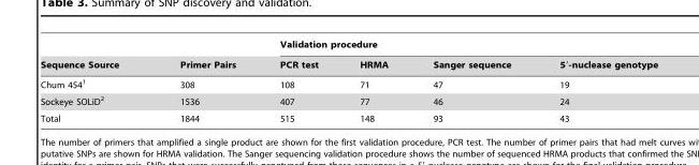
<table><thead><tr><td rowspan="2">Sequence Source</td><td rowspan="2">Primer Pairs</td><td colspan="4">Validation procedure</td></tr><tr><td>PCR test</td><td>HRMA</td><td>Sanger sequence</td><td>5′-nuclease genotype</td></tr></thead><tbody><tr><td>Chum 454<sup>1</sup></td><td>308</td><td>108</td><td>71</td><td>47</td><td>19</td></tr><tr><td>Sockeye SOLiD<sup>2</sup></td><td>1536</td><td>407</td><td>77</td><td>46</td><td>24</td></tr><tr><td>Total</td><td>1844</td><td>515</td><td>148</td><td>93</td><td>43</td></tr></tbody></table>